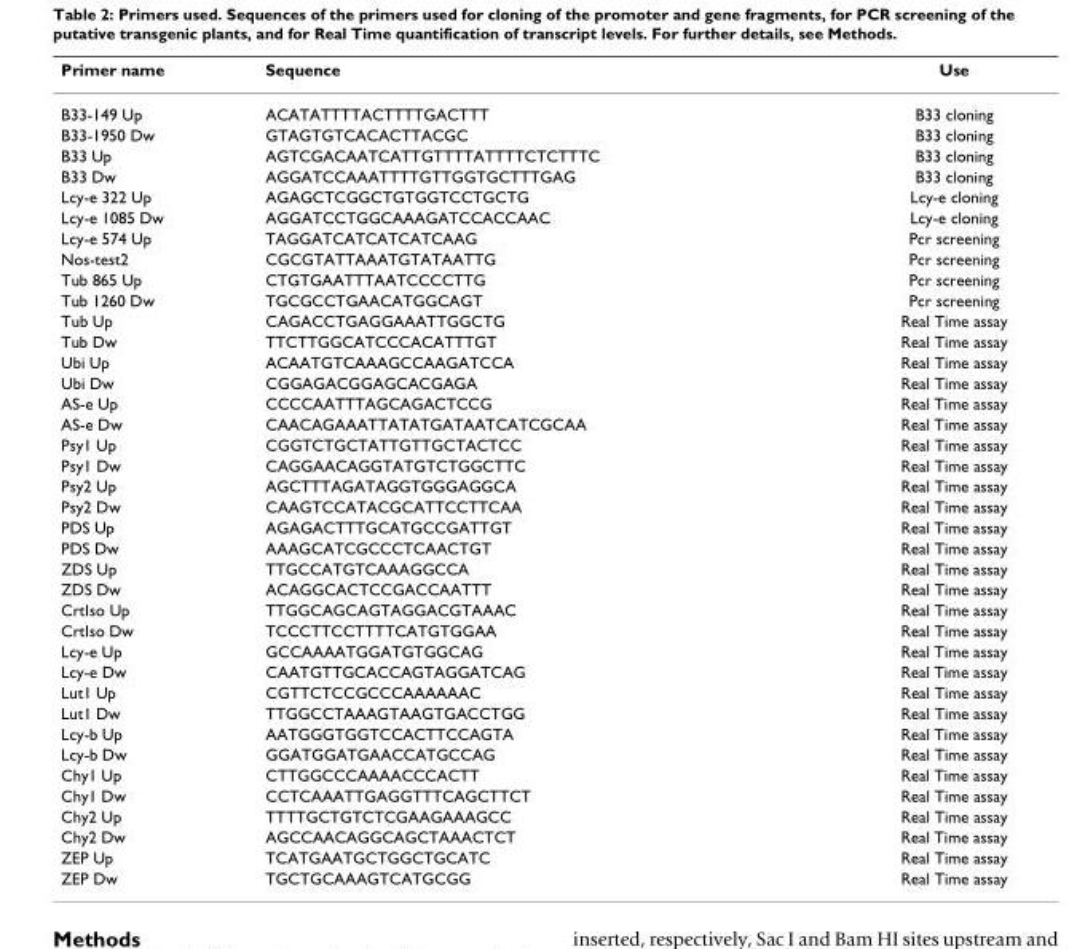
<table><thead><tr><td>Primer name</td><td>Sequence</td><td>Use</td></tr></thead><tbody><tr><td>B33-149 Up</td><td>ACATATTTTACTTTTGACTTT</td><td>B33 cloning</td></tr><tr><td>B33-1950 Dw</td><td>GTAGTGTCACACTTACGC</td><td>B33 cloning</td></tr><tr><td>B33 Up</td><td>AGTCGACAATCATTGTTTTATTTTCTCTTTC</td><td>B33 cloning</td></tr><tr><td>B33 Dw</td><td>AGGATCCAAATTTTGTTGGTGCTTTGAG</td><td>B33 cloning</td></tr><tr><td>Lcy-e 322 Up</td><td>AGAGCTCGGCTGTGGTCCTGCTG</td><td>Lcy-e cloning</td></tr><tr><td>Lcy-e 1085 Dw</td><td>AGGATCCTGGCAAAGATCCACCAAC</td><td>Lcy-e cloning</td></tr><tr><td>Lcy-e 574 Up</td><td>TAGGATCATCATCATCAAG</td><td>Pcr screening</td></tr><tr><td>Nos-test2</td><td>CGCGTATTAAATGTATAATTG</td><td>Pcr screening</td></tr><tr><td>Tub 865 Up</td><td>CTGTGAATTTAATCCCCTTG</td><td>Pcr screening</td></tr><tr><td>Tub 1260 Dw</td><td>TGCGCCTGAACATGGCAGT</td><td>Pcr screening</td></tr><tr><td>Tub Up</td><td>CAGACCTGAGGAAATTGGCTG</td><td>Real Time assay</td></tr><tr><td>Tub Dw</td><td>TTCTTGGCATCCCACATTTGT</td><td>Real Time assay</td></tr><tr><td>Ubi Up</td><td>ACAATGTCAAAGCCAAGATCCA</td><td>Real Time assay</td></tr><tr><td>Ubi Dw</td><td>CGGAGACGGAGCACGAGA</td><td>Real Time assay</td></tr><tr><td>AS-e Up</td><td>CCCCAATTTAGCAGACTCCG</td><td>Real Time assay</td></tr><tr><td>AS-e Dw</td><td>CAACAGAAATTATATGATAATCATCGCAA</td><td>Real Time assay</td></tr><tr><td>Psy1 Up</td><td>CGGTCTGCTATTGTTGCTACTCC</td><td>Real Time assay</td></tr><tr><td>Psy1 Dw</td><td>CAGGAACAGGTATGTCTGGCTTC</td><td>Real Time assay</td></tr><tr><td>Psy2 Up</td><td>AGCTTTAGATAGGTGGGAGGCA</td><td>Real Time assay</td></tr><tr><td>Psy2 Dw</td><td>CAAGTCCATACGCATTCCTTCAA</td><td>Real Time assay</td></tr><tr><td>PDS Up</td><td>AGAGACTTTGCATGCCGATTGT</td><td>Real Time assay</td></tr><tr><td>PDS Dw</td><td>AAAGCATCGCCCTCAACTGT</td><td>Real Time assay</td></tr><tr><td>ZDS Up</td><td>TTGCCATGTCAAAGGCCA</td><td>Real Time assay</td></tr><tr><td>ZDS Dw</td><td>ACAGGCACTCCGACCAATTT</td><td>Real Time assay</td></tr><tr><td>CrtIso Up</td><td>TTGGCAGCAGTAGGACGTAAAC</td><td>Real Time assay</td></tr><tr><td>CrtIso Dw</td><td>TCCCTTCCTTTTCATGTGGAA</td><td>Real Time assay</td></tr><tr><td>Lcy-e Up</td><td>GCCAAAATGGATGTGGCAG</td><td>Real Time assay</td></tr><tr><td>Lcy-e Dw</td><td>CAATGTTGCACCAGTAGGATCAG</td><td>Real Time assay</td></tr><tr><td>Lut1 Up</td><td>CGTTCTCCGCCCAAAAAAC</td><td>Real Time assay</td></tr><tr><td>Lut1 Dw</td><td>TTGGCCTAAAGTAAGTGACCTGG</td><td>Real Time assay</td></tr><tr><td>Lcy-b Up</td><td>AATGGGTGGTCCACTTCCAGTA</td><td>Real Time assay</td></tr><tr><td>Lcy-b Dw</td><td>GGATGGATGAACCATGCCAG</td><td>Real Time assay</td></tr><tr><td>Chy1 Up</td><td>CTTGGCCCAAAACCCACTT</td><td>Real Time assay</td></tr><tr><td>Chy1 Dw</td><td>CCTCAAATTGAGGTTTCAGCTTCT</td><td>Real Time assay</td></tr><tr><td>Chy2 Up</td><td>TTTTGCTGTCTCGAAGAAAGCC</td><td>Real Time assay</td></tr><tr><td>Chy2 Dw</td><td>AGCCAACAGGCAGCTAAACTCT</td><td>Real Time assay</td></tr><tr><td>ZEP Up</td><td>TCATGAATGCTGGCTGCATC</td><td>Real Time assay</td></tr><tr><td>ZEP Dw</td><td>TGCTGCAAAGTCATGCGG</td><td>Real Time assay</td></tr></tbody></table>